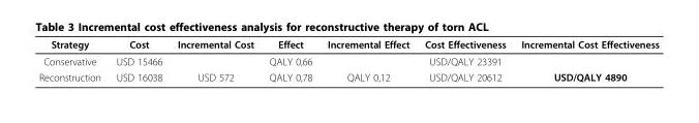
<table><thead><tr><td>Strategy</td><td>Cost</td><td>Incremental Cost</td><td>Effect</td><td>Incremental Effect</td><td>Cost Effectiveness</td><td>Incremental Cost Effectiveness</td></tr></thead><tbody><tr><td>Conservative</td><td>USD 15466</td><td></td><td>QALY 0,66</td><td></td><td>USD/QALY 23391</td><td></td></tr><tr><td>Reconstruction</td><td>USD 16038</td><td>USD 572</td><td>QALY 0,78</td><td>QALY 0,12</td><td>USD/QALY 20612</td><td>USD/QALY 4890</td></tr></tbody></table>